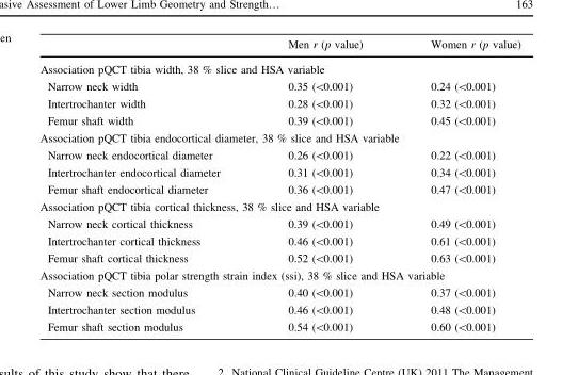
<table><thead><tr><td></td><td>Men r (p value)</td><td>Women r (p value)</td></tr></thead><tbody><tr><td colspan="3">Association pQCT tibia width, 38 % slice and HSA variable</td></tr><tr><td>Narrow neck width</td><td>0.35 (&lt;0.001)</td><td>0.24 (&lt;0.001)</td></tr><tr><td>Intertrochanter width</td><td>0.28 (&lt;0.001)</td><td>0.32 (&lt;0.001)</td></tr><tr><td>Femur shaft width</td><td>0.39 (&lt;0.001)</td><td>0.45 (&lt;0.001)</td></tr><tr><td colspan="3">Association pQCT tibia endocortical diameter, 38 % slice and HSA variable</td></tr><tr><td>Narrow neck endocortical diameter</td><td>0.26 (&lt;0.001)</td><td>0.22 (&lt;0.001)</td></tr><tr><td>Intertrochanter endocortical diameter</td><td>0.31 (&lt;0.001)</td><td>0.34 (&lt;0.001)</td></tr><tr><td>Femur shaft endocortical diameter</td><td>0.36 (&lt;0.001)</td><td>0.47 (&lt;0.001)</td></tr><tr><td colspan="3">Association pQCT tibia cortical thickness, 38 % slice and HSA variable</td></tr><tr><td>Narrow neck cortical thickness</td><td>0.39 (&lt;0.001)</td><td>0.49 (&lt;0.001)</td></tr><tr><td>Intertrochanter cortical thickness</td><td>0.46 (&lt;0.001)</td><td>0.61 (&lt;0.001)</td></tr><tr><td>Femur shaft cortical thickness</td><td>0.52 (&lt;0.001)</td><td>0.63 (&lt;0.001)</td></tr><tr><td colspan="3">Association pQCT tibia polar strength strain index (ssi), 38 % slice and HSA variable</td></tr><tr><td>Narrow neck section modulus</td><td>0.40 (&lt;0.001)</td><td>0.37 (&lt;0.001)</td></tr><tr><td>Intertrochanter section modulus</td><td>0.46 (&lt;0.001)</td><td>0.48 (&lt;0.001)</td></tr><tr><td>Femur shaft section modulus</td><td>0.54 (&lt;0.001)</td><td>0.60 (&lt;0.001)</td></tr></tbody></table>